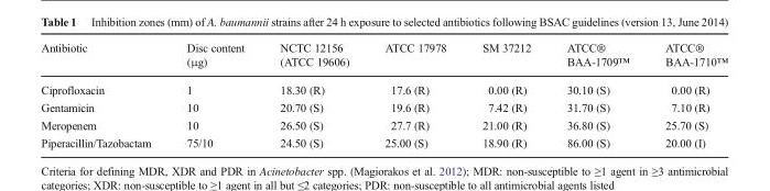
<table><thead><tr><td>Antibiotic</td><td>Disc content (μg)</td><td>NCTC 12156 (ATCC 19606)</td><td>ATCC 17978</td><td>SM 37212</td><td>ATCC® BAA-1709™</td><td>ATCC® BAA-1710™</td></tr></thead><tbody><tr><td>Ciprofloxacin</td><td>1</td><td>18.30 (R)</td><td>17.6 (R)</td><td>0.00 (R)</td><td>30.10 (S)</td><td>0.00 (R)</td></tr><tr><td>Gentamicin</td><td>10</td><td>20.70 (S)</td><td>19.6 (R)</td><td>7.42 (R)</td><td>31.70 (S)</td><td>7.10 (R)</td></tr><tr><td>Meropenem</td><td>10</td><td>26.50 (S)</td><td>27.7 (R)</td><td>21.00 (R)</td><td>36.80 (S)</td><td>25.70 (S)</td></tr><tr><td>Piperacillin/Tazobactam</td><td>75/10</td><td>24.50 (S)</td><td>25.00 (S)</td><td>18.90 (R)</td><td>86.00 (S)</td><td>20.00 (I)</td></tr></tbody></table>